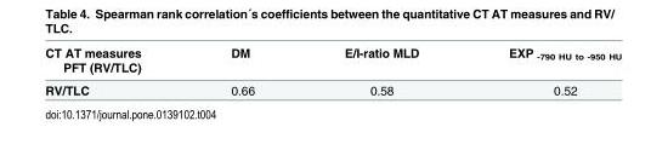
<table><thead><tr><td>CT AT measures PFT (RV/TLC)</td><td>DM</td><td>E/I-ratio MLD</td><td>EXP <sub>-790 HU to -950 HU</sub></td></tr></thead><tbody><tr><td>RV/TLC</td><td>0.66</td><td>0.58</td><td>0.52</td></tr></tbody></table>